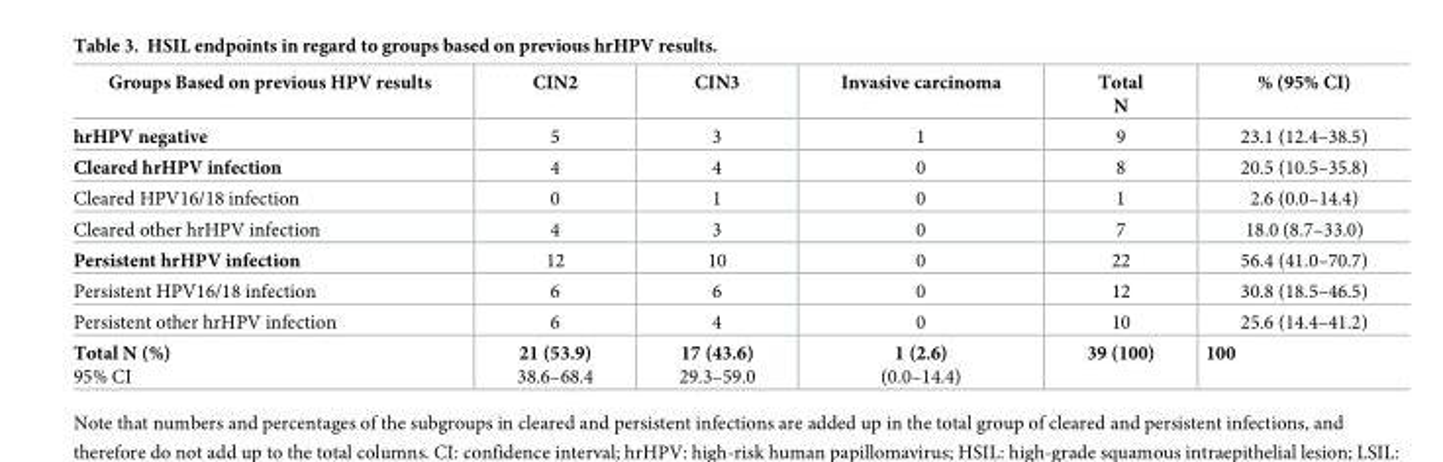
<table><thead><tr><td>Groups Based on previous HPV results</td><td>CIN2</td><td>CIN3</td><td>Invasive carcinoma</td><td>Total N</td><td>% (95% CI)</td></tr></thead><tbody><tr><td>hrHPV negative</td><td>5</td><td>3</td><td>1</td><td>9</td><td>23.1 (12.4–38.5)</td></tr><tr><td>Cleared hrHPV infection</td><td>4</td><td>4</td><td>0</td><td>8</td><td>20.5 (10.5–35.8)</td></tr><tr><td>Cleared HPV16/18 infection</td><td>0</td><td>1</td><td>0</td><td>1</td><td>2.6 (0.0–14.4)</td></tr><tr><td>Cleared other hrHPV infection</td><td>4</td><td>3</td><td>0</td><td>7</td><td>18.0 (8.7–33.0)</td></tr><tr><td>Persistent hrHPV infection</td><td>12</td><td>10</td><td>0</td><td>22</td><td>56.4 (41.0–70.7)</td></tr><tr><td>Persistent HPV16/18 infection</td><td>6</td><td>6</td><td>0</td><td>12</td><td>30.8 (18.5–46.5)</td></tr><tr><td>Persistent other hrHPV infection</td><td>6</td><td>4</td><td>0</td><td>10</td><td>25.6 (14.4–41.2)</td></tr><tr><td>Total N (%) 95% CI</td><td>21 (53.9) 38.6–68.4</td><td>17 (43.6) 29.3–59.0</td><td>1 (2.6) (0.0–14.4)</td><td>39 (100)</td><td>100</td></tr></tbody></table>